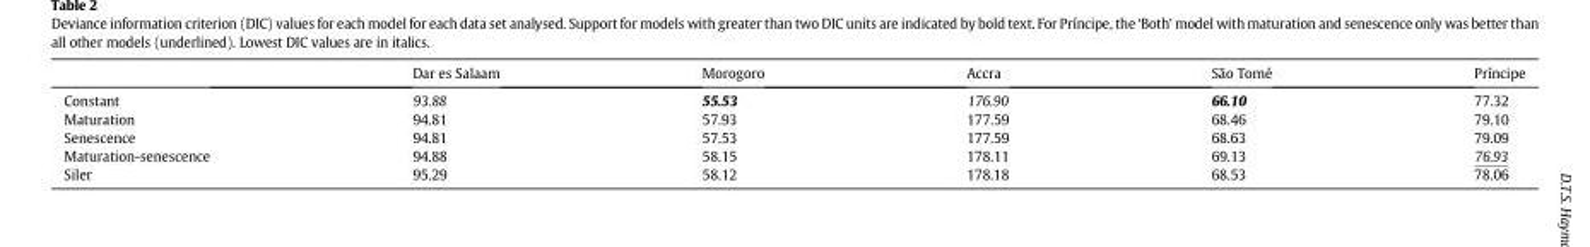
<table><thead><tr><td></td><td>Dar es Salaam</td><td>Morogoro</td><td>Accra</td><td>São Tomé</td><td>Príncipe</td></tr></thead><tbody><tr><td>Constant</td><td>93.88</td><td>55.53</td><td>176.90</td><td>66.10</td><td>77.32</td></tr><tr><td>Maturation</td><td>94.81</td><td>57.93</td><td>177.59</td><td>68.46</td><td>79.10</td></tr><tr><td>Senescence</td><td>94.81</td><td>57.53</td><td>177.59</td><td>68.63</td><td>79.09</td></tr><tr><td>Maturation-senescence</td><td>94.88</td><td>58.15</td><td>178.11</td><td>69.13</td><td>76.93</td></tr><tr><td>Siler</td><td>95.29</td><td>58.12</td><td>178.18</td><td>68.53</td><td>78.06</td></tr></tbody></table>